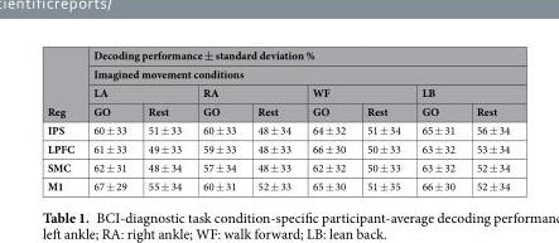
<table><thead><tr><td rowspan="4">Reg</td><td rowspan="2" colspan="8">Decoding performance ± standard deviation % Imagined movement conditions</td></tr><tr></tr><tr><td colspan="2">LA</td><td colspan="2">RA</td><td colspan="2">WF</td><td colspan="2">LB</td></tr><tr><td>GO</td><td>Rest</td><td>GO</td><td>Rest</td><td>GO</td><td>Rest</td><td>GO</td><td>Rest</td></tr></thead><tbody><tr><td>IPS</td><td>60 ± 33</td><td>51 ± 33</td><td>60 ± 33</td><td>48 ± 34</td><td>64 ± 32</td><td>51 ± 34</td><td>65 ± 31</td><td>56 ± 34</td></tr><tr><td>LPFC</td><td>61 ± 33</td><td>49 ± 33</td><td>59 ± 33</td><td>48 ± 33</td><td>66 ± 30</td><td>50 ± 33</td><td>63 ± 32</td><td>53 ± 34</td></tr><tr><td>SMC</td><td>62 ± 31</td><td>48 ± 34</td><td>57 ± 34</td><td>48 ± 33</td><td>62 ± 32</td><td>50 ± 33</td><td>63 ± 32</td><td>52 ± 34</td></tr><tr><td>M1</td><td>67 ± 29</td><td>55 ± 34</td><td>60 ± 31</td><td>52 ± 33</td><td>65 ± 30</td><td>51 ± 35</td><td>66 ± 30</td><td>52 ± 34</td></tr></tbody></table>